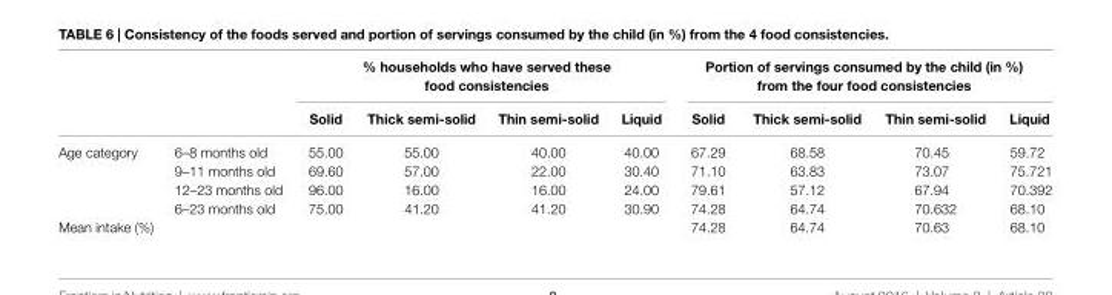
<table><thead><tr><td rowspan="2"></td><td rowspan="2"></td><td colspan="4">% households who have served these food consistencies</td><td colspan="4">Portion of servings consumed by the child (in %) from the four food consistencies</td></tr><tr><td>solid</td><td>Thick semi-solid</td><td>Thin semi-solid</td><td>liquid</td><td>solid</td><td>Thick semi-solid</td><td>Thin semi-solid</td><td>liquid</td></tr></thead><tbody><tr><td rowspan="4">Age category</td><td>6–8 months old</td><td>55.00</td><td>55.00</td><td>40.00</td><td>40.00</td><td>67.29</td><td>68.58</td><td>70.45</td><td>59.72</td></tr><tr><td>9–11 months old</td><td>69.60</td><td>57.00</td><td>22.00</td><td>30.40</td><td>71.10</td><td>63.83</td><td>73.07</td><td>75.721</td></tr><tr><td>12–23 months old</td><td>96.00</td><td>16.00</td><td>16.00</td><td>24.00</td><td>79.61</td><td>57.12</td><td>67.94</td><td>70.392</td></tr><tr><td>6–23 months old</td><td>75.00</td><td>41.20</td><td>41.20</td><td>30.90</td><td>74.28</td><td>64.74</td><td>70.632</td><td>68.10</td></tr><tr><td>Mean intake (%)</td><td></td><td></td><td></td><td></td><td></td><td>74.28</td><td>64.74</td><td>70.63</td><td>68.10</td></tr></tbody></table>